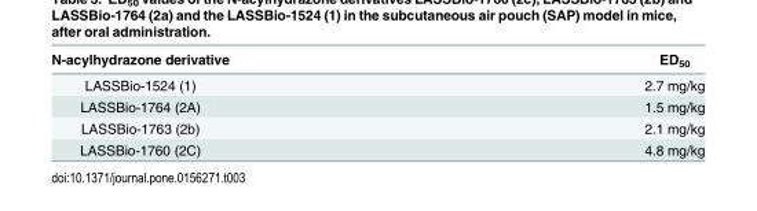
<table><thead><tr><td>N-acylhydrazone derivative</td><td>ED<sub>50</sub></td></tr></thead><tbody><tr><td>LASSBio-1524 (1)</td><td>2.7 mg/kg</td></tr><tr><td>LASSBio-1764 (2A)</td><td>1.5 mg/kg</td></tr><tr><td>LASSBio-1763 (2b)</td><td>2.1 mg/kg</td></tr><tr><td>LASSBio-1760 (2C)</td><td>4.8 mg/kg</td></tr></tbody></table>